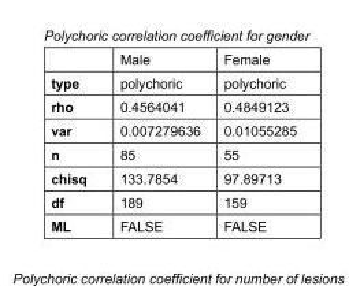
<table><thead><tr><td></td><td>Male</td><td>Female</td></tr></thead><tbody><tr><td>type</td><td>polychoric</td><td>polychoric</td></tr><tr><td>rho</td><td>0.4564041</td><td>0.4849123</td></tr><tr><td>var</td><td>0.007279636</td><td>0.01055285</td></tr><tr><td>n</td><td>85</td><td>55</td></tr><tr><td>chisq</td><td>133.7854</td><td>97.89713</td></tr><tr><td>df</td><td>189</td><td>159</td></tr><tr><td>ML</td><td>FALSE</td><td>FALSE</td></tr></tbody></table>